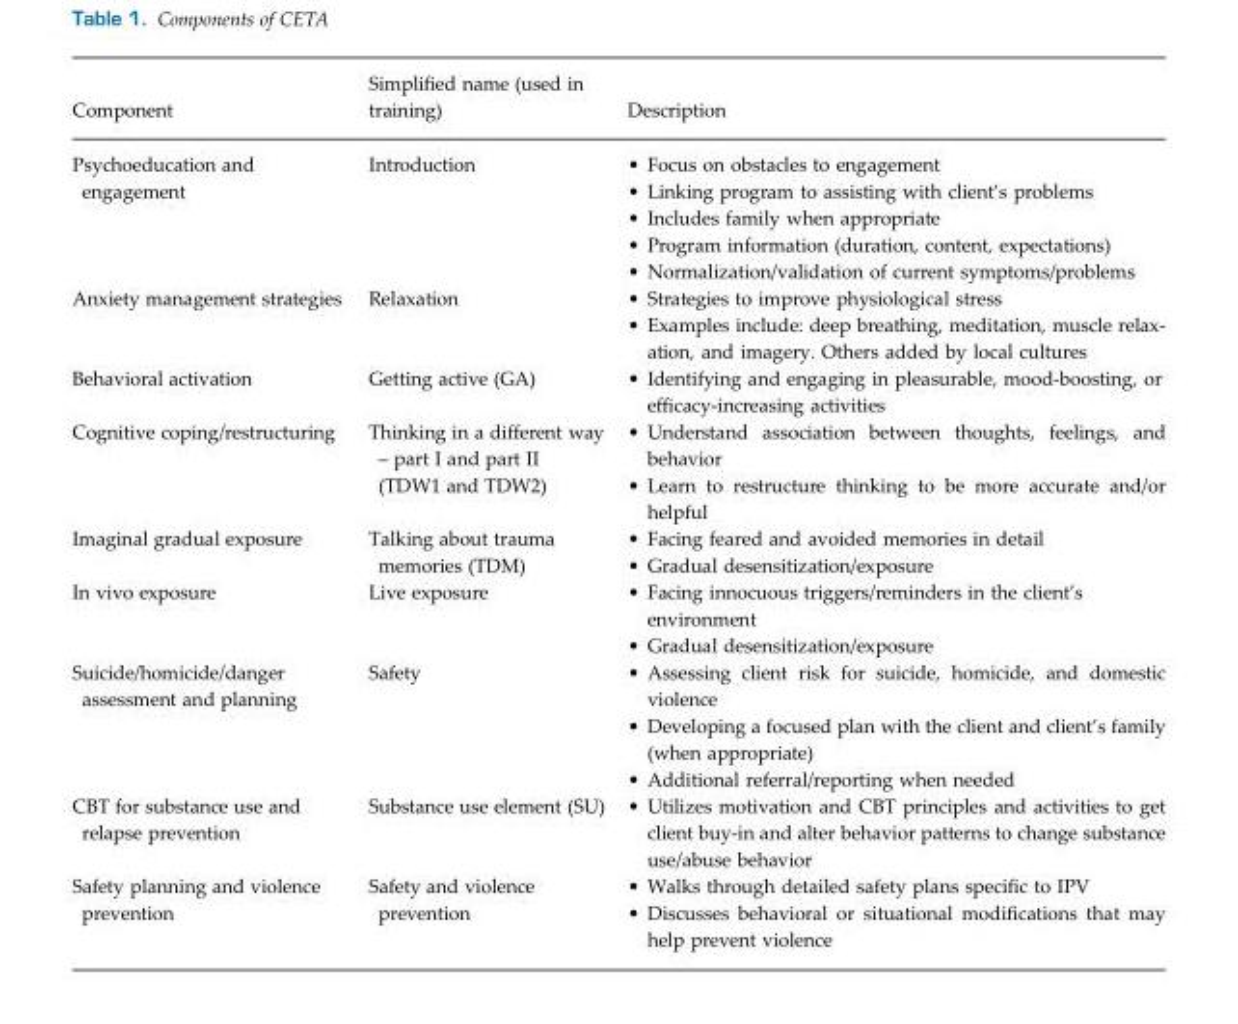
<table><thead><tr><td>Component</td><td>Simplified name (used in training)</td><td>Description</td></tr></thead><tbody><tr><td>Psychoeducation and engagement</td><td>Introduction</td><td>• Focus on obstacles to engagement • Linking program to assisting with client’s problems • Includes family when appropriate • Program information (duration, content, expectations) • Normalization/validation of current symptoms/problems</td></tr><tr><td>Anxiety management strategies</td><td>Relaxation</td><td>• Strategies to improve physiological stress • Examples include: deep breathing, meditation, muscle relax- ation, and imagery. Others added by local cultures</td></tr><tr><td>Behavioral activation</td><td>Getting active (GA)</td><td>• Identifying and engaging in pleasurable, mood-boosting, or efficacy-increasing activities</td></tr><tr><td>Cognitive coping/restructuring</td><td>Thinking in a different way – part I and part II (TDW1 and TDW2)</td><td>• Understand association between thoughts, feelings, and behavior • Learn to restructure thinking to be more accurate and/or helpful</td></tr><tr><td>Imaginal gradual exposure</td><td>Talking about trauma memories (TDM)</td><td>• Facing feared and avoided memories in detail • Gradual desensitization/exposure</td></tr><tr><td>In vivo exposure</td><td>Live exposure</td><td>• Facing innocuous triggers/reminders in the client’s environment • Gradual desensitization/exposure</td></tr><tr><td>Suicide/homicide/danger assessment and planning</td><td>Safety</td><td>• Assessing client risk for suicide, homicide, and domestic violence • Developing a focused plan with the client and client’s family (when appropriate) • Additional referral/reporting when needed</td></tr><tr><td>CBT for substance use and relapse prevention</td><td>Substance use element (SU)</td><td>• Utilizes motivation and CBT principles and activities to get client buy-in and alter behavior patterns to change substance use/abuse behavior</td></tr><tr><td>Safety planning and violence prevention</td><td>Safety and violence prevention</td><td>• Walks through detailed safety plans specific to IPV • Discusses behavioral or situational modifications that may help prevent violence</td></tr></tbody></table>